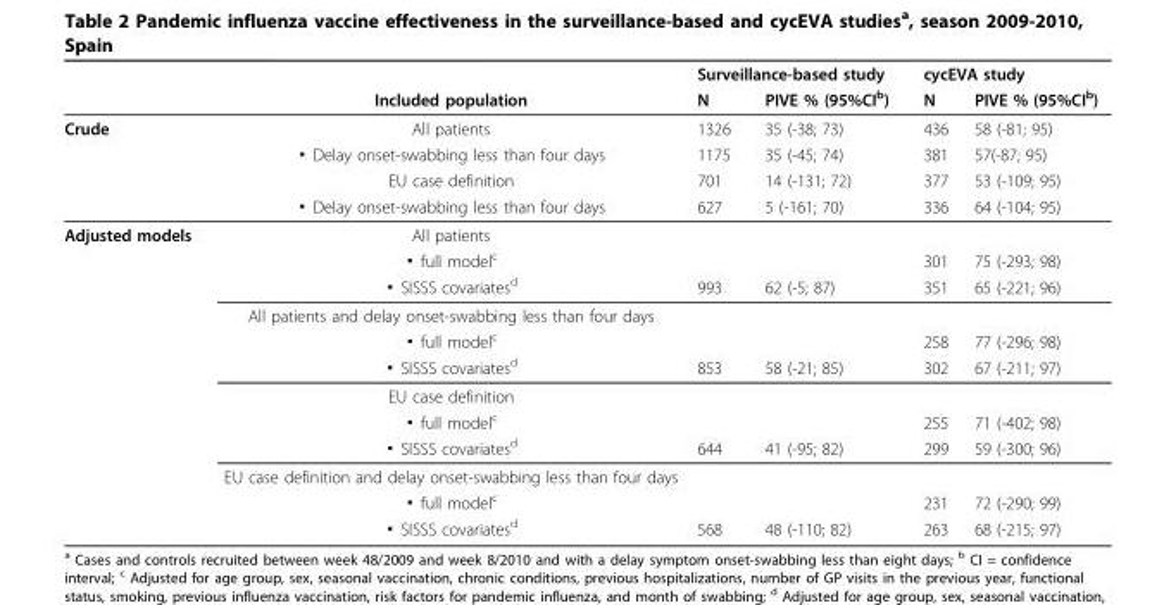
<table><thead><tr><td rowspan="2"></td><td rowspan="2">Included population</td><td colspan="2">Surveillance-based study</td><td colspan="2">cycEVA study</td></tr><tr><td>N</td><td>PIVE % (95%CI<sup>b</sup>)</td><td>N</td><td>PIVE % (95%CI<sup>b</sup>)</td></tr></thead><tbody><tr><td rowspan="4">Crude</td><td>All patients</td><td>1326</td><td>35 (-38; 73)</td><td>436</td><td>58 (-81; 95)</td></tr><tr><td>▪ Delay onset-swabbing less than four days</td><td>1175</td><td>35 (-45; 74)</td><td>381</td><td>57(-87; 95)</td></tr><tr><td>EU case definition</td><td>701</td><td>14 (-131; 72)</td><td>377</td><td>53 (-109; 95)</td></tr><tr><td>▪ Delay onset-swabbing less than four days</td><td>627</td><td>5 (-161; 70)</td><td>336</td><td>64 (-104; 95)</td></tr><tr><td rowspan="12">Adjusted models</td><td>All patients</td><td></td><td></td><td></td><td></td></tr><tr><td>▪ full model<sup>c</sup></td><td></td><td></td><td>301</td><td>75 (-293; 98)</td></tr><tr><td>▪ SISSS covariates<sup>d</sup></td><td>993</td><td>62 (-5; 87)</td><td>351</td><td>65 (-221; 96)</td></tr><tr><td>All patients and delay onset-swabbing less than four days</td><td></td><td></td><td></td><td></td></tr><tr><td>▪ full model<sup>c</sup></td><td></td><td></td><td>258</td><td>77 (-296; 98)</td></tr><tr><td>▪ SISSS covariates<sup>d</sup></td><td>853</td><td>58 (-21; 85)</td><td>302</td><td>67 (-211; 97)</td></tr><tr><td>EU case definition</td><td></td><td></td><td></td><td></td></tr><tr><td>▪ full model<sup>c</sup></td><td></td><td></td><td>255</td><td>71 (-402; 98)</td></tr><tr><td>▪ SISSS covariates<sup>d</sup></td><td>644</td><td>41 (-95; 82)</td><td>299</td><td>59 (-300; 96)</td></tr><tr><td>EU case definition and delay onset-swabbing less than four days</td><td></td><td></td><td></td><td></td></tr><tr><td>▪ full model<sup>c</sup></td><td></td><td></td><td>231</td><td>72 (-290; 99)</td></tr><tr><td>▪ SISSS covariates<sup>d</sup></td><td>568</td><td>48 (-110; 82)</td><td>263</td><td>68 (-215; 97)</td></tr></tbody></table>